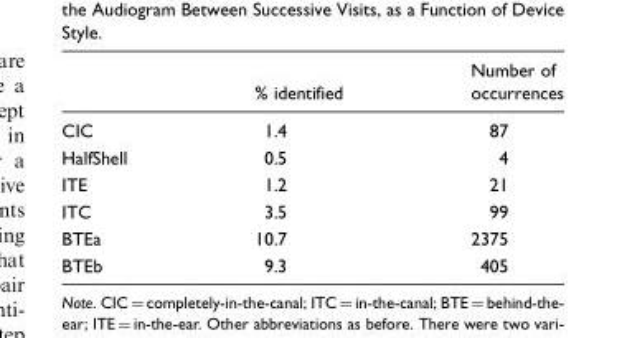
<table><thead><tr><td></td><td>% identified</td><td>Number of occurrences</td></tr></thead><tbody><tr><td>CIC</td><td>1.4</td><td>87</td></tr><tr><td>HalfShell</td><td>0.5</td><td>4</td></tr><tr><td>ITE</td><td>1.2</td><td>21</td></tr><tr><td>ITC</td><td>3.5</td><td>99</td></tr><tr><td>BTEa</td><td>10.7</td><td>2375</td></tr><tr><td>BTEb</td><td>9.3</td><td>405</td></tr></tbody></table>